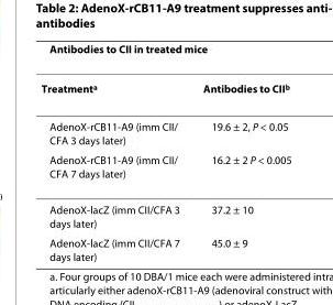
<table><thead><tr><td colspan="2">Antibodies to CII in treated mice</td></tr><tr><td>Treatment<sup>a</sup></td><td>Antibodies to CII<sup>b</sup></td></tr></thead><tbody><tr><td>AdenoX-rCB11-A9 (imm CII/ CFA 3 days later)</td><td>19.6 ± 2, P &lt; 0.05</td></tr><tr><td>AdenoX-rCB11-A9 (imm CII/ CFA 7 days later)</td><td>16.2 ± 2 P &lt; 0.005</td></tr><tr><td>AdenoX-lacZ (imm CII/CFA 3 days later)</td><td>37.2 ± 10</td></tr><tr><td>AdenoX-lacZ (imm CII/CFA 7 days later)</td><td>45.0 ± 9</td></tr></tbody></table>